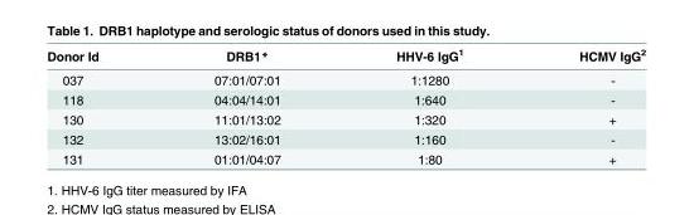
<table><thead><tr><td>Donor Id</td><td>DRB1*</td><td>HHV-6 IgG<sup>1</sup></td><td>HCMV IgG<sup>2</sup></td></tr></thead><tbody><tr><td>037</td><td>07:01/07:01</td><td>1:1280</td><td>-</td></tr><tr><td>118</td><td>04:04/14:01</td><td>1:640</td><td>-</td></tr><tr><td>130</td><td>11:01/13:02</td><td>1:320</td><td>+</td></tr><tr><td>132</td><td>13:02/16:01</td><td>1:160</td><td>-</td></tr><tr><td>131</td><td>01:01/04:07</td><td>1:80</td><td>+</td></tr></tbody></table>